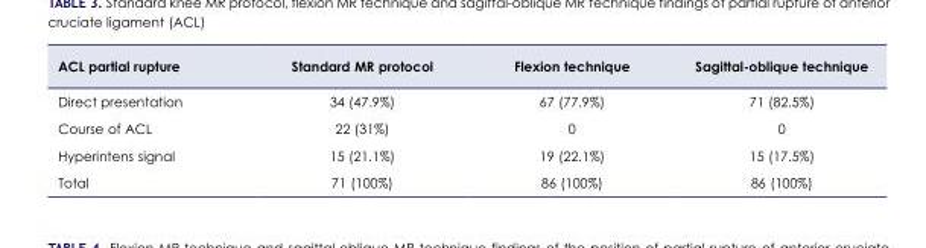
<table><thead><tr><td>ACL partial rupture</td><td>Standard MR protocol</td><td>Flexion technique</td><td>Sagittal-oblique technique</td></tr></thead><tbody><tr><td>Direct presentation</td><td>34 (47.9%)</td><td>67 (77.9%)</td><td>71 (82.5%)</td></tr><tr><td>Course of ACL</td><td>22 (31%)</td><td>0</td><td>0</td></tr><tr><td>Hyperintens signal</td><td>15 (21.1%)</td><td>19 (22.1%)</td><td>15 (17.5%)</td></tr><tr><td>Total</td><td>71 (100%)</td><td>86 (100%)</td><td>86 (100%)</td></tr></tbody></table>